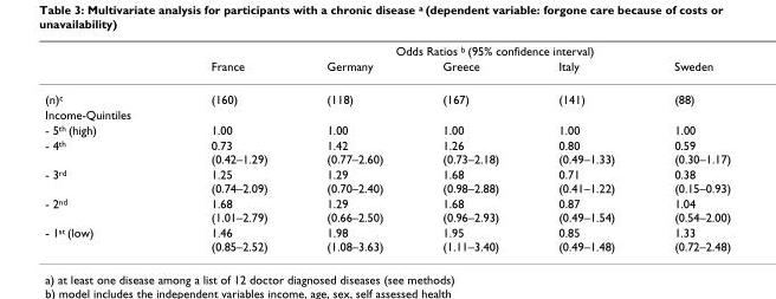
<table><thead><tr><td rowspan="2"></td><td colspan="5">Odds Ratios <sup>b</sup> (95% confidence interval)</td></tr><tr><td>France</td><td>Germany</td><td>Greece</td><td>Italy</td><td>Sweden</td></tr></thead><tbody><tr><td>(n)<sup>c</sup></td><td>(160)</td><td>(118)</td><td>(167)</td><td>(141)</td><td>(88)</td></tr><tr><td colspan="6">Income-Quintiles</td></tr><tr><td>- 5<sup>th</sup> (high)</td><td>1.00</td><td>1.00</td><td>1.00</td><td>1.00</td><td>1.00</td></tr><tr><td>- 4<sup>th</sup></td><td>0.73 (0.42–1.29)</td><td>1.42 (0.77–2.60)</td><td>1.26 (0.73–2.18)</td><td>0.80 (0.49–1.33)</td><td>0.59 (0.30–1.17)</td></tr><tr><td>- 3<sup>rd</sup></td><td>1.25 (0.74–2.09)</td><td>1.29 (0.70–2.40)</td><td>1.68 (0.98–2.88)</td><td>0.71 (0.41–1.22)</td><td>0.38 (0.15–0.93)</td></tr><tr><td>- 2<sup>nd</sup></td><td>1.68 (1.01–2.79)</td><td>1.29 (0.66–2.50)</td><td>1.68 (0.96–2.93)</td><td>0.87 (0.49–1.54)</td><td>1.04 (0.54–2.00)</td></tr><tr><td>- 1<sup>st</sup> (low)</td><td>1.46 (0.85–2.52)</td><td>1.98 (1.08–3.63)</td><td>1.95 (1.11–3.40)</td><td>0.85 (0.49–1.48)</td><td>1.33 (0.72–2.48)</td></tr></tbody></table>